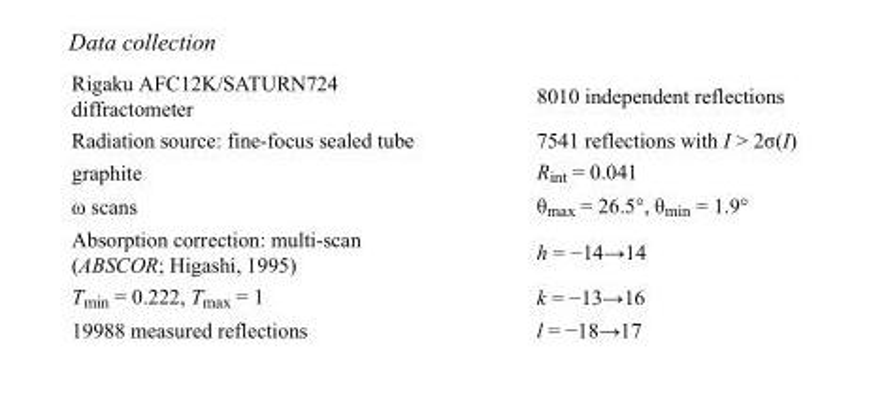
<table><tbody><tr><td>Rigaku AFC12K/SATURN724 diffractometer</td><td>8010 independent reflections</td></tr><tr><td>Radiation source: fine-focus sealed tube</td><td>7541 reflections with I &gt; 2σ(I)</td></tr><tr><td>graphite</td><td>R<sub>int</sub> = 0.041</td></tr><tr><td>ω scans</td><td>θ<sub>max</sub> = 26.5°, θ<sub>min</sub> = 1.9°</td></tr><tr><td>Absorption correction: multi-scan (ABSCOR; Higashi, 1995)</td><td>h = −14→14</td></tr><tr><td>T<sub>min</sub> = 0.222, T<sub>max</sub> = 1</td><td>k = −13→16</td></tr><tr><td>19988 measured reflections</td><td>l = −18→17</td></tr></tbody></table>